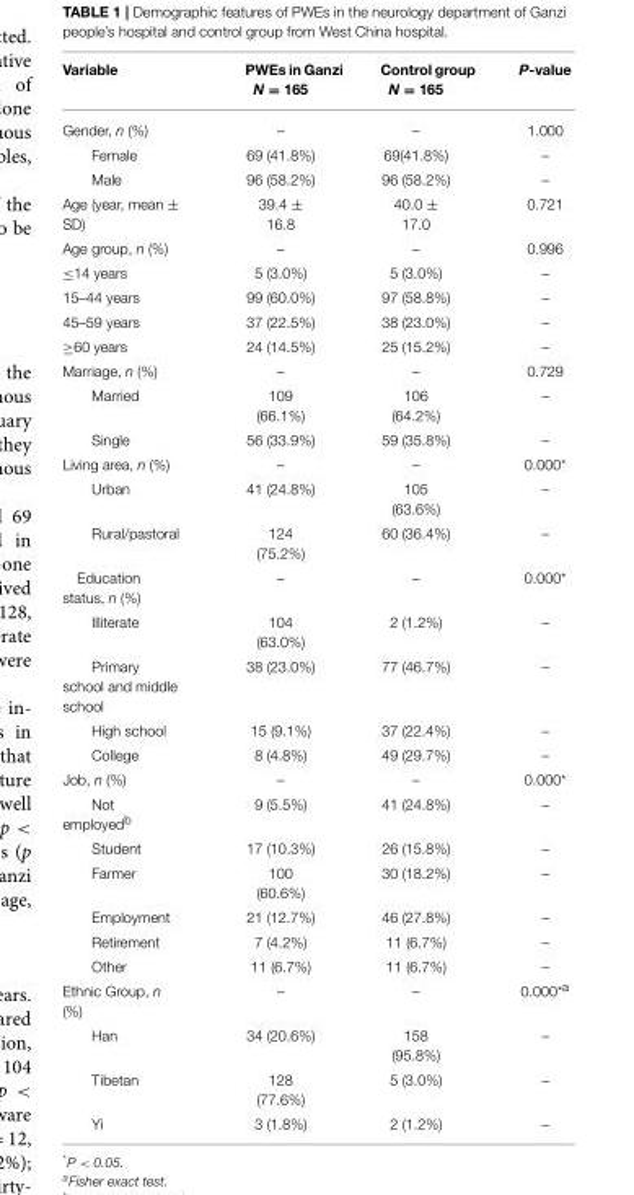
<table><thead><tr><td>Variable</td><td>PWEs in Ganzi N = 165</td><td>Control group N = 165</td><td>P-value</td></tr></thead><tbody><tr><td>Gender, n (%)</td><td>–</td><td>–</td><td>1.000</td></tr><tr><td>Female</td><td>69 (41.8%)</td><td>69(41.8%)</td><td>–</td></tr><tr><td>Male</td><td>96 (58.2%)</td><td>96 (58.2%)</td><td>–</td></tr><tr><td>Age (year, mean ± SD)</td><td>39.4 ± 16.8</td><td>40.0 ± 17.0</td><td>0.721</td></tr><tr><td>Age group, n (%)</td><td>–</td><td>–</td><td>0.996</td></tr><tr><td>≤14 years</td><td>5 (3.0%)</td><td>5 (3.0%)</td><td>–</td></tr><tr><td>15–44 years</td><td>99 (60.0%)</td><td>97 (58.8%)</td><td>–</td></tr><tr><td>45–59 years</td><td>37 (22.5%)</td><td>38 (23.0%)</td><td>–</td></tr><tr><td>≥60 years</td><td>24 (14.5%)</td><td>25 (15.2%)</td><td>–</td></tr><tr><td>Marriage, n (%)</td><td>–</td><td>–</td><td>0.729</td></tr><tr><td>Married</td><td>109 (66.1%)</td><td>106 (64.2%)</td><td>–</td></tr><tr><td>Single</td><td>56 (33.9%)</td><td>59 (35.8%)</td><td>–</td></tr><tr><td>Living area, n (%)</td><td>–</td><td>–</td><td>0.000*</td></tr><tr><td>Urban</td><td>41 (24.8%)</td><td>105 (63.6%)</td><td>–</td></tr><tr><td>Rural/pastoral</td><td>124 (75.2%)</td><td>60 (36.4%)</td><td>–</td></tr><tr><td>Education status, n (%)</td><td>–</td><td>–</td><td>0.000*</td></tr><tr><td>Illiterate</td><td>104 (63.0%)</td><td>2 (1.2%)</td><td>–</td></tr><tr><td>Primary school and middle school</td><td>38 (23.0%)</td><td>77 (46.7%)</td><td>–</td></tr><tr><td>High school</td><td>15 (9.1%)</td><td>37 (22.4%)</td><td>–</td></tr><tr><td>College</td><td>8 (4.8%)</td><td>49 (29.7%)</td><td>–</td></tr><tr><td>Job, n (%)</td><td>–</td><td>–</td><td>0.000*</td></tr><tr><td>Not employed<sup>b</sup></td><td>9 (5.5%)</td><td>41 (24.8%)</td><td>–</td></tr><tr><td>Student</td><td>17 (10.3%)</td><td>26 (15.8%)</td><td>–</td></tr><tr><td>Farmer</td><td>100 (60.6%)</td><td>30 (18.2%)</td><td>–</td></tr><tr><td>Employment</td><td>21 (12.7%)</td><td>46 (27.8%)</td><td>–</td></tr><tr><td>Retirement</td><td>7 (4.2%)</td><td>11 (6.7%)</td><td>–</td></tr><tr><td>Other</td><td>11 (6.7%)</td><td>11 (6.7%)</td><td>–</td></tr><tr><td>Ethnic Group, n (%)</td><td>–</td><td>–</td><td>0.000<sup>*a</sup></td></tr><tr><td>Han</td><td>34 (20.6%)</td><td>158 (95.8%)</td><td>–</td></tr><tr><td>Tibetan</td><td>128 (77.6%)</td><td>5 (3.0%)</td><td>–</td></tr><tr><td>Yi</td><td>3 (1.8%)</td><td>2 (1.2%)</td><td>–</td></tr></tbody></table>